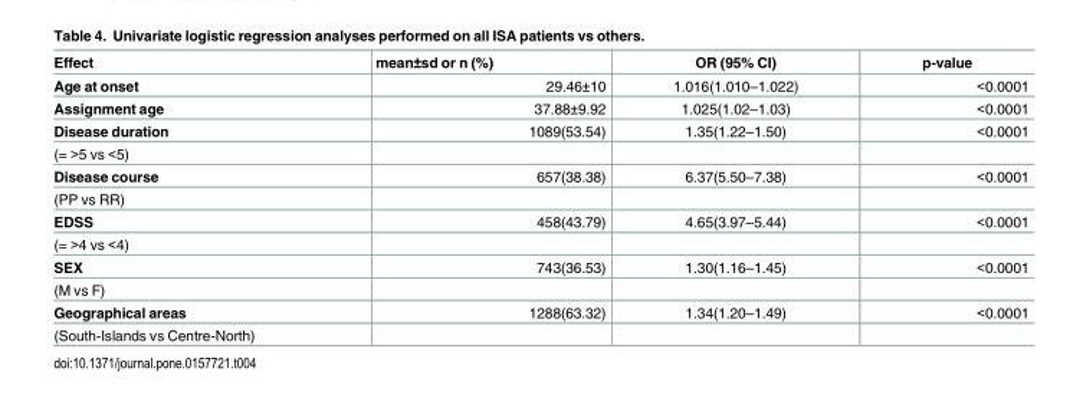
<table><thead><tr><td>Effect</td><td>mean±sd or n (%)</td><td>OR (95% CI)</td><td>p-value</td></tr></thead><tbody><tr><td>Age at onset</td><td>29.46±10</td><td>1.016(1.010–1.022)</td><td>&lt;0.0001</td></tr><tr><td>Assignment age</td><td>37.88±9.92</td><td>1.025(1.02–1.03)</td><td>&lt;0.0001</td></tr><tr><td>Disease duration</td><td>1089(53.54)</td><td>1.35(1.22–1.50)</td><td>&lt;0.0001</td></tr><tr><td colspan="4">(= &gt;5 vs &lt;5)</td></tr><tr><td>Disease course</td><td>657(38.38)</td><td>6.37(5.50–7.38)</td><td>&lt;0.0001</td></tr><tr><td colspan="4">(PP vs RR)</td></tr><tr><td>EDSS</td><td>458(43.79)</td><td>4.65(3.97–5.44)</td><td>&lt;0.0001</td></tr><tr><td colspan="4">(= &gt;4 vs &lt;4)</td></tr><tr><td>SEX</td><td>743(36.53)</td><td>1.30(1.16–1.45)</td><td>&lt;0.0001</td></tr><tr><td colspan="4">(M vs F)</td></tr><tr><td>Geographical areas</td><td>1288(63.32)</td><td>1.34(1.20–1.49)</td><td>&lt;0.0001</td></tr><tr><td>(South-Islands vs Centre-North)</td><td></td><td></td><td></td></tr></tbody></table>